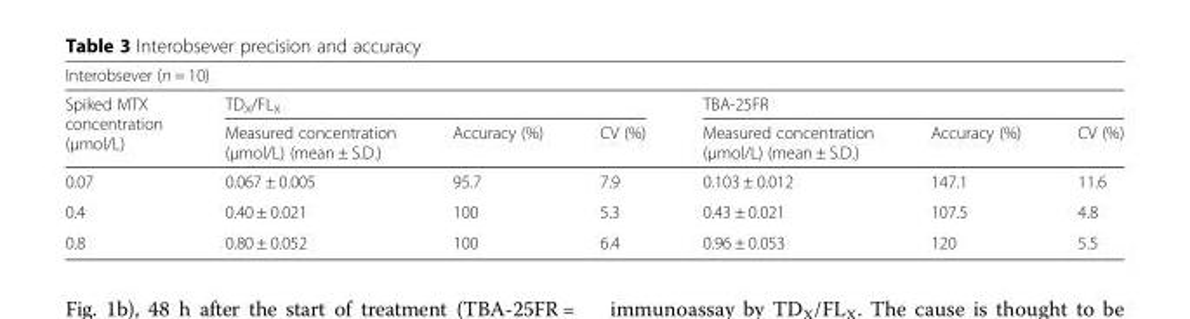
<table><thead><tr><td colspan="7">Interobsever (n = 10)</td></tr><tr><td rowspan="2">Spiked MTX concentration (μmol/L)</td><td colspan="3">TD<sub>X</sub>/FL<sub>X</sub></td><td colspan="3">TBA-25FR</td></tr><tr><td>Measured concentration (μmol/L) (mean ± S.D.)</td><td>Accuracy (%)</td><td>CV (%)</td><td>Measured concentration (μmol/L) (mean ± S.D.)</td><td>Accuracy (%)</td><td>CV (%)</td></tr></thead><tbody><tr><td>0.07</td><td>0.067 ± 0.005</td><td>95.7</td><td>7.9</td><td>0.103 ± 0.012</td><td>147.1</td><td>11.6</td></tr><tr><td>0.4</td><td>0.40 ± 0.021</td><td>100</td><td>5.3</td><td>0.43 ± 0.021</td><td>107.5</td><td>4.8</td></tr><tr><td>0.8</td><td>0.80 ± 0.052</td><td>100</td><td>6.4</td><td>0.96 ± 0.053</td><td>120</td><td>5.5</td></tr></tbody></table>